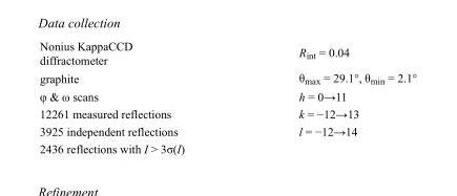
<table><tbody><tr><td>Nonius KappaCCD diffractometer</td><td>R<sub>int</sub> = 0.04</td></tr><tr><td>graphite</td><td>θ<sub>max</sub> = 29.1°, θ<sub>min</sub> = 2.1°</td></tr><tr><td>φ &amp; ω scans</td><td>h = 0→11</td></tr><tr><td>12261 measured reflections</td><td>k = −12→13</td></tr><tr><td>3925 independent reflections</td><td>l = −12→14</td></tr><tr><td>2436 reflections with I &gt; 3σ(I)</td><td></td></tr></tbody></table>